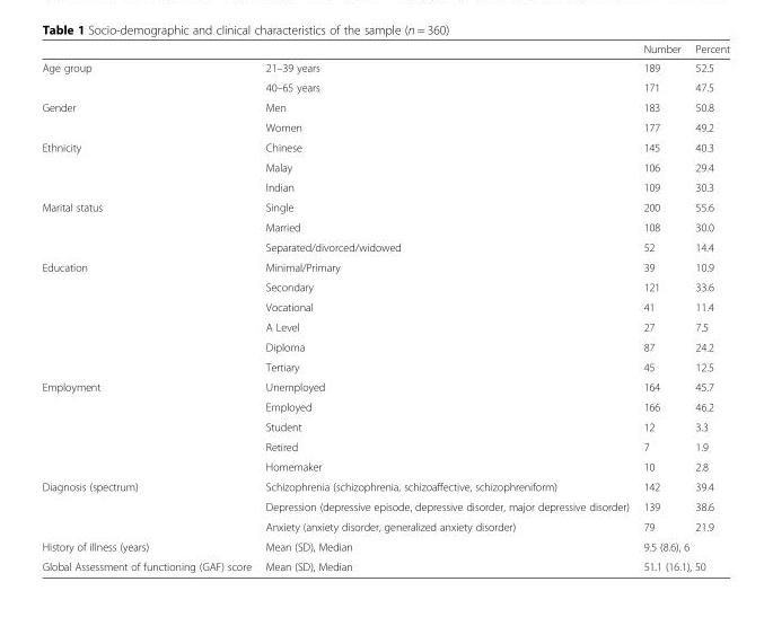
<table><thead><tr><td></td><td></td><td>Number</td><td>Percent</td></tr></thead><tbody><tr><td rowspan="2">Age group</td><td>21–39 years</td><td>189</td><td>52.5</td></tr><tr><td>40–65 years</td><td>171</td><td>47.5</td></tr><tr><td rowspan="2">Gender</td><td>Men</td><td>183</td><td>50.8</td></tr><tr><td>Women</td><td>177</td><td>49.2</td></tr><tr><td rowspan="3">Ethnicity</td><td>Chinese</td><td>145</td><td>40.3</td></tr><tr><td>Malay</td><td>106</td><td>29.4</td></tr><tr><td>Indian</td><td>109</td><td>30.3</td></tr><tr><td rowspan="3">Marital status</td><td>Single</td><td>200</td><td>55.6</td></tr><tr><td>Married</td><td>108</td><td>30.0</td></tr><tr><td>Separated/divorced/widowed</td><td>52</td><td>14.4</td></tr><tr><td rowspan="6">Education</td><td>Minimal/Primary</td><td>39</td><td>10.9</td></tr><tr><td>Secondary</td><td>121</td><td>33.6</td></tr><tr><td>Vocational</td><td>41</td><td>11.4</td></tr><tr><td>A Level</td><td>27</td><td>7.5</td></tr><tr><td>Diploma</td><td>87</td><td>24.2</td></tr><tr><td>Tertiary</td><td>45</td><td>12.5</td></tr><tr><td rowspan="5">Employment</td><td>Unemployed</td><td>164</td><td>45.7</td></tr><tr><td>Employed</td><td>166</td><td>46.2</td></tr><tr><td>Student</td><td>12</td><td>3.3</td></tr><tr><td>Retired</td><td>7</td><td>1.9</td></tr><tr><td>Homemaker</td><td>10</td><td>2.8</td></tr><tr><td rowspan="3">Diagnosis (spectrum)</td><td>Schizophrenia (schizophrenia, schizoaffective, schizophreniform)</td><td>142</td><td>39.4</td></tr><tr><td>Depression (depressive episode, depressive disorder, major depressive disorder)</td><td>139</td><td>38.6</td></tr><tr><td>Anxiety (anxiety disorder, generalized anxiety disorder)</td><td>79</td><td>21.9</td></tr><tr><td>History of illness (years)</td><td>Mean (SD), Median</td><td colspan="2">9.5 (8.6), 6</td></tr><tr><td>Global Assessment of functioning (GAF) score</td><td>Mean (SD), Median</td><td colspan="2">51.1 (16.1), 50</td></tr></tbody></table>